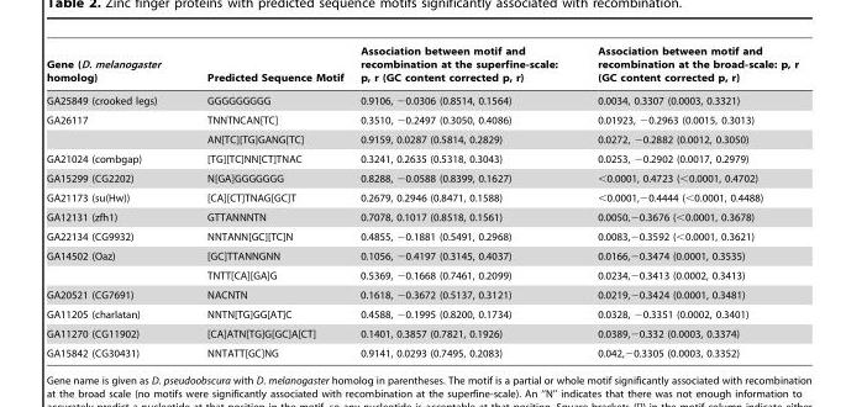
<table><thead><tr><td>Gene (D. melanogaster homolog)</td><td>Predicted Sequence Motif</td><td>Association between motif and recombination at the superfine-scale: p, r (GC content corrected p, r)</td><td>Association between motif and recombination at the broad-scale: p, r (GC content corrected p, r)</td></tr></thead><tbody><tr><td>GA25849 (crooked legs)</td><td>GGGGGGGGG</td><td>0.9106, −0.0306 (0.8514, 0.1564)</td><td>0.0034, 0.3307 (0.0003, 0.3321)</td></tr><tr><td rowspan="2">GA26117</td><td>TNNTNCAN[TC]</td><td>0.3510, −0.2497 (0.3050, 0.4086)</td><td>0.01923, −0.2963 (0.0015, 0.3013)</td></tr><tr><td>AN[TC][TG]GANG[TC]</td><td>0.9159, 0.0287 (0.5814, 0.2829)</td><td>0.0272, −0.2882 (0.0012, 0.3050)</td></tr><tr><td>GA21024 (combgap)</td><td>[TG][TC]NN[CT]TNAC</td><td>0.3241, 0.2635 (0.5318, 0.3043)</td><td>0.0253, −0.2902 (0.0017, 0.2979)</td></tr><tr><td>GA15299 (CG2202)</td><td>N[GA]GGGGGGG</td><td>0.8288, −0.0588 (0.8399, 0.1627)</td><td>&lt;0.0001, 0.4723 (&lt;0.0001, 0.4702)</td></tr><tr><td>GA21173 (su(Hw))</td><td>[CA][CT]TNAG[GC]T</td><td>0.2679, 0.2946 (0.8471, 0.1588)</td><td>&lt;0.0001,−0.4444 (&lt;0.0001, 0.4488)</td></tr><tr><td>GA12131 (zfh1)</td><td>GTTANNNTN</td><td>0.7078, 0.1017 (0.8518, 0.1561)</td><td>0.0050,−0.3676 (&lt;0.0001, 0.3678)</td></tr><tr><td>GA22134 (CG9932)</td><td>NNTANN[GC][TC]N</td><td>0.4855, −0.1881 (0.5491, 0.2968)</td><td>0.0083,−0.3592 (&lt;0.0001, 0.3621)</td></tr><tr><td rowspan="2">GA14502 (Oaz)</td><td>[GC]TTANNGNN</td><td>0.1056, −0.4197 (0.3145, 0.4037)</td><td>0.0166,−0.3474 (0.0001, 0.3535)</td></tr><tr><td>TNTT[CA][GA]G</td><td>0.5369, −0.1668 (0.7461, 0.2099)</td><td>0.0234,−0.3413 (0.0002, 0.3413)</td></tr><tr><td>GA20521 (CG7691)</td><td>NACNTN</td><td>0.1618, −0.3672 (0.5137, 0.3121)</td><td>0.0219,−0.3424 (0.0001, 0.3481)</td></tr><tr><td>GA11205 (charlatan)</td><td>NNTN[TG]GG[AT]C</td><td>0.4588, −0.1995 (0.8200, 0.1734)</td><td>0.0328, −0.3351 (0.0002, 0.3401)</td></tr><tr><td>GA11270 (CG11902)</td><td>[CA]ATN[TG]G[GC]A[CT]</td><td>0.1401, 0.3857 (0.7821, 0.1926)</td><td>0.0389,−0.332 (0.0003, 0.3374)</td></tr><tr><td>GA15842 (CG30431)</td><td>NNTATT[GC]NG</td><td>0.9141, 0.0293 (0.7495, 0.2083)</td><td>0.042,−0.3305 (0.0003, 0.3352)</td></tr></tbody></table>